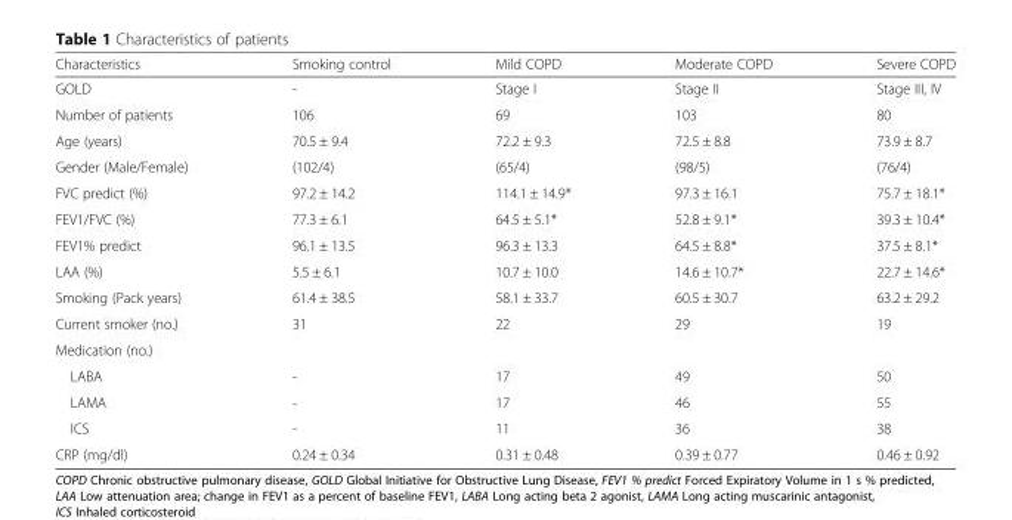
<table><thead><tr><td>Characteristics</td><td>Smoking control</td><td>Mild COPD</td><td>Moderate COPD</td><td>Severe COPD</td></tr></thead><tbody><tr><td>GOLD</td><td>-</td><td>Stage I</td><td>Stage II</td><td>Stage III, IV</td></tr><tr><td>Number of patients</td><td>106</td><td>69</td><td>103</td><td>80</td></tr><tr><td>Age (years)</td><td>70.5 ± 9.4</td><td>72.2 ± 9.3</td><td>72.5 ± 8.8</td><td>73.9 ± 8.7</td></tr><tr><td>Gender (Male/Female)</td><td>(102/4)</td><td>(65/4)</td><td>(98/5)</td><td>(76/4)</td></tr><tr><td>FVC predict (%)</td><td>97.2 ± 14.2</td><td>114.1 ± 14.9*</td><td>97.3 ± 16.1</td><td>75.7 ± 18.1*</td></tr><tr><td>FEV1/FVC (%)</td><td>77.3 ± 6.1</td><td>64.5 ± 5.1*</td><td>52.8 ± 9.1*</td><td>39.3 ± 10.4*</td></tr><tr><td>FEV1% predict</td><td>96.1 ± 13.5</td><td>96.3 ± 13.3</td><td>64.5 ± 8.8*</td><td>37.5 ± 8.1*</td></tr><tr><td>LAA (%)</td><td>5.5 ± 6.1</td><td>10.7 ± 10.0</td><td>14.6 ± 10.7*</td><td>22.7 ± 14.6*</td></tr><tr><td>Smoking (Pack years)</td><td>61.4 ± 38.5</td><td>58.1 ± 33.7</td><td>60.5 ± 30.7</td><td>63.2 ± 29.2</td></tr><tr><td>Current smoker (no.)</td><td>31</td><td>22</td><td>29</td><td>19</td></tr><tr><td colspan="5">Medication (no.)</td></tr><tr><td>LABA</td><td>-</td><td>17</td><td>49</td><td>50</td></tr><tr><td>LAMA</td><td>-</td><td>17</td><td>46</td><td>55</td></tr><tr><td>ICS</td><td>-</td><td>11</td><td>36</td><td>38</td></tr><tr><td>CRP (mg/dl)</td><td>0.24 ± 0.34</td><td>0.31 ± 0.48</td><td>0.39 ± 0.77</td><td>0.46 ± 0.92</td></tr></tbody></table>